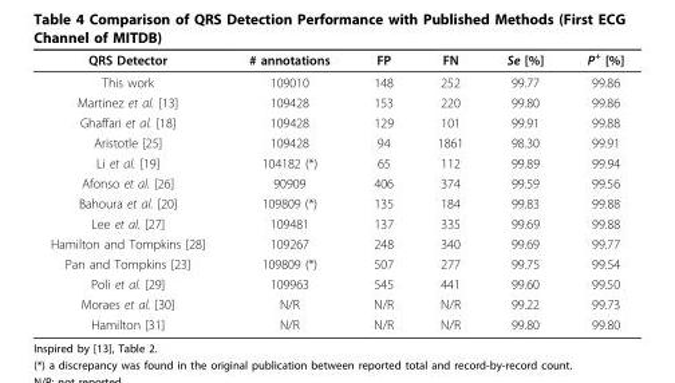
<table><thead><tr><td>QRS Detector</td><td># annotations</td><td>FP</td><td>FN</td><td>Se [%]</td><td>P<sup>+</sup> [%]</td></tr></thead><tbody><tr><td>This work</td><td>109010</td><td>148</td><td>252</td><td>99.77</td><td>99.86</td></tr><tr><td>Martinez et al. [13]</td><td>109428</td><td>153</td><td>220</td><td>99.80</td><td>99.86</td></tr><tr><td>Ghaffari et al. [18]</td><td>109428</td><td>129</td><td>101</td><td>99.91</td><td>99.88</td></tr><tr><td>Aristotle [25]</td><td>109428</td><td>94</td><td>1861</td><td>98.30</td><td>99.91</td></tr><tr><td>Li et al. [19]</td><td>104182 (*)</td><td>65</td><td>112</td><td>99.89</td><td>99.94</td></tr><tr><td>Afonso et al. [26]</td><td>90909</td><td>406</td><td>374</td><td>99.59</td><td>99.56</td></tr><tr><td>Bahoura et al. [20]</td><td>109809 (*)</td><td>135</td><td>184</td><td>99.83</td><td>99.88</td></tr><tr><td>Lee et al. [27]</td><td>109481</td><td>137</td><td>335</td><td>99.69</td><td>99.88</td></tr><tr><td>Hamilton and Tompkins [28]</td><td>109267</td><td>248</td><td>340</td><td>99.69</td><td>99.77</td></tr><tr><td>Pan and Tompkins [23]</td><td>109809 (*)</td><td>507</td><td>277</td><td>99.75</td><td>99.54</td></tr><tr><td>Poli et al. [29]</td><td>109963</td><td>545</td><td>441</td><td>99.60</td><td>99.50</td></tr><tr><td>Moraes et al. [30]</td><td>N/R</td><td>N/R</td><td>N/R</td><td>99.22</td><td>99.73</td></tr><tr><td>Hamilton [31]</td><td>N/R</td><td>N/R</td><td>N/R</td><td>99.80</td><td>99.80</td></tr></tbody></table>